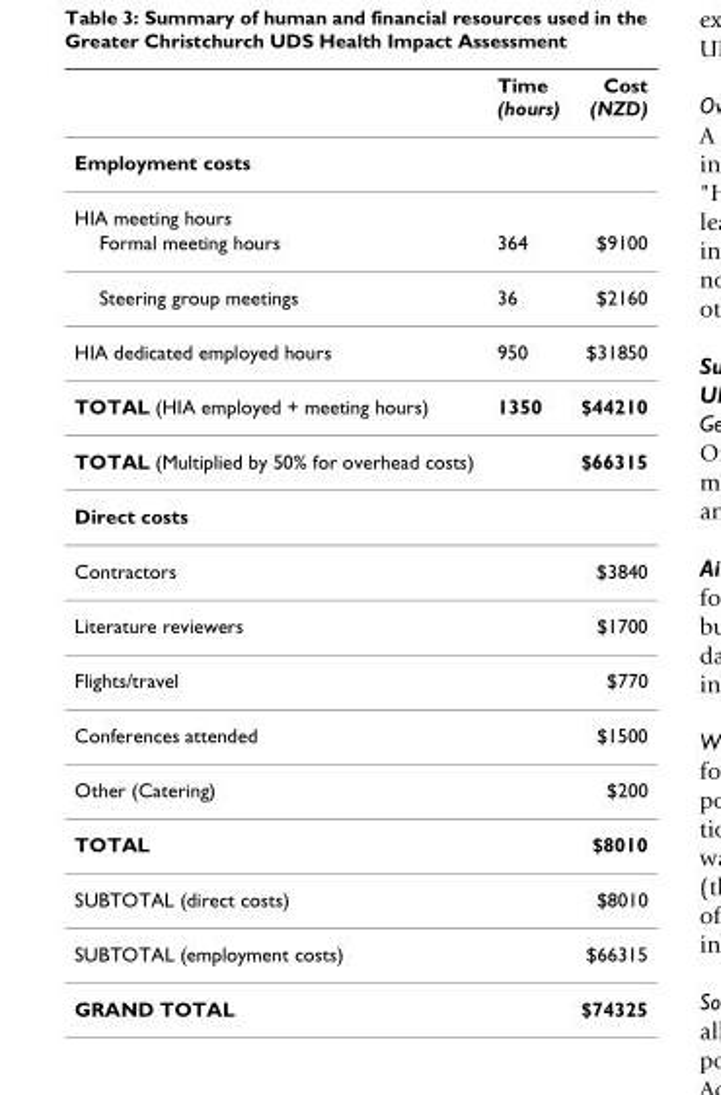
<table><thead><tr><td></td><td>Time (hours)</td><td>Cost (NZD)</td></tr></thead><tbody><tr><td colspan="3">Employment costs</td></tr><tr><td colspan="3">HIA meeting hours</td></tr><tr><td>Formal meeting hours</td><td>364</td><td>$9100</td></tr><tr><td>Steering group meetings</td><td>36</td><td>$2160</td></tr><tr><td>HIA dedicated employed hours</td><td>950</td><td>$31850</td></tr><tr><td>TOTAL (HIA employed + meeting hours)</td><td>1350</td><td>$44210</td></tr><tr><td>TOTAL (Multiplied by 50% for overhead costs)</td><td></td><td>$66315</td></tr><tr><td colspan="3">Direct costs</td></tr><tr><td>Contractors</td><td></td><td>$3840</td></tr><tr><td>Literature reviewers</td><td></td><td>$1700</td></tr><tr><td>Flights/travel</td><td></td><td>$770</td></tr><tr><td>Conferences attended</td><td></td><td>$1500</td></tr><tr><td>Other (Catering)</td><td></td><td>$200</td></tr><tr><td>TOTAL</td><td></td><td>$8010</td></tr><tr><td>SUBTOTAL (direct costs)</td><td></td><td>$8010</td></tr><tr><td>SUBTOTAL (employment costs)</td><td></td><td>$66315</td></tr><tr><td>GRAND TOTAL</td><td></td><td>$74325</td></tr></tbody></table>